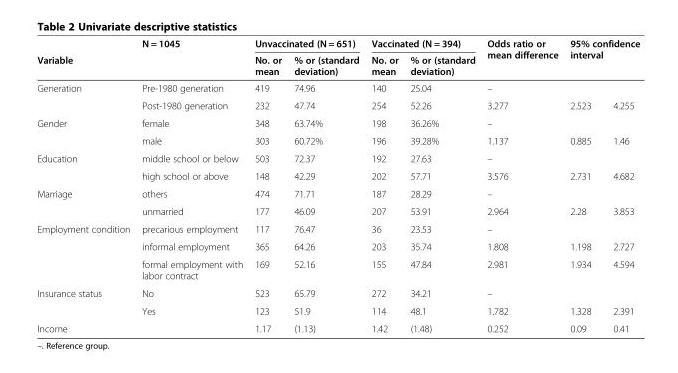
<table><thead><tr><td rowspan="3">Variable Generation</td><td rowspan="3">N = 1045 Pre-1980 generation</td><td colspan="2">Unvaccinated (N = 651)</td><td colspan="2">Vaccinated (N = 394)</td><td rowspan="3">Odds ratio or mean difference –</td><td rowspan="2" colspan="2">95% confidence interval</td></tr><tr><td rowspan="2">No. or mean 419</td><td rowspan="2">% or (standard deviation) 74.96</td><td rowspan="2">No. or mean 140</td><td rowspan="2">% or (standard deviation) 25.04</td></tr><tr><td></td><td></td></tr></thead><tbody><tr><td></td><td>Post-1980 generation</td><td>232</td><td>47.74</td><td>254</td><td>52.26</td><td>3.277</td><td>2.523</td><td>4.255</td></tr><tr><td rowspan="2">Gender</td><td>female</td><td>348</td><td>63.74%</td><td>198</td><td>36.26%</td><td>–</td><td></td><td></td></tr><tr><td>male</td><td>303</td><td>60.72%</td><td>196</td><td>39.28%</td><td>1.137</td><td>0.885</td><td>1.46</td></tr><tr><td rowspan="2">Education</td><td>middle school or below</td><td>503</td><td>72.37</td><td>192</td><td>27.63</td><td>–</td><td></td><td></td></tr><tr><td>high school or above</td><td>148</td><td>42.29</td><td>202</td><td>57.71</td><td>3.576</td><td>2.731</td><td>4.682</td></tr><tr><td rowspan="2">Marriage</td><td>others</td><td>474</td><td>71.71</td><td>187</td><td>28.29</td><td>–</td><td></td><td></td></tr><tr><td>unmarried</td><td>177</td><td>46.09</td><td>207</td><td>53.91</td><td>2.964</td><td>2.28</td><td>3.853</td></tr><tr><td rowspan="3">Employment condition</td><td>precarious employment</td><td>117</td><td>76.47</td><td>36</td><td>23.53</td><td>–</td><td></td><td></td></tr><tr><td>informal employment</td><td>365</td><td>64.26</td><td>203</td><td>35.74</td><td>1.808</td><td>1.198</td><td>2.727</td></tr><tr><td>formal employment with labor contract</td><td>169</td><td>52.16</td><td>155</td><td>47.84</td><td>2.981</td><td>1.934</td><td>4.594</td></tr><tr><td rowspan="2">Insurance status</td><td>No</td><td>523</td><td>65.79</td><td>272</td><td>34.21</td><td>–</td><td></td><td></td></tr><tr><td>Yes</td><td>123</td><td>51.9</td><td>114</td><td>48.1</td><td>1.782</td><td>1.328</td><td>2.391</td></tr><tr><td>Income</td><td></td><td>1.17</td><td>(1.13)</td><td>1.42</td><td>(1.48)</td><td>0.252</td><td>0.09</td><td>0.41</td></tr></tbody></table>